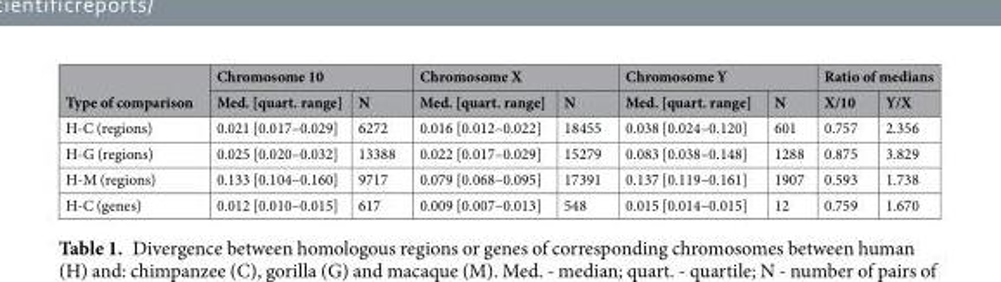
<table><thead><tr><td rowspan="2">Type of comparison</td><td colspan="2">Chromosome 10</td><td colspan="2">Chromosome X</td><td colspan="2">Chromosome Y</td><td colspan="2">Ratio of medians</td></tr><tr><td>Med. [quart. range]</td><td>N</td><td>Med. [quart. range]</td><td>N</td><td>Med. [quart. range]</td><td>N</td><td>X/10</td><td>Y/X</td></tr></thead><tbody><tr><td>H-C (regions)</td><td>0.021 [0.017–0.029]</td><td>6272</td><td>0.016 [0.012–0.022]</td><td>18455</td><td>0.038 [0.024–0.120]</td><td>601</td><td>0.757</td><td>2.356</td></tr><tr><td>H-G (regions)</td><td>0.025 [0.020–0.032]</td><td>13388</td><td>0.022 [0.017–0.029]</td><td>15279</td><td>0.083 [0.038–0.148]</td><td>1288</td><td>0.875</td><td>3.829</td></tr><tr><td>H-M (regions)</td><td>0.133 [0.104–0.160]</td><td>9717</td><td>0.079 [0.068–0.095]</td><td>17391</td><td>0.137 [0.119–0.161]</td><td>1907</td><td>0.593</td><td>1.738</td></tr><tr><td>H-C (genes)</td><td>0.012 [0.010–0.015]</td><td>617</td><td>0.009 [0.007–0.013]</td><td>548</td><td>0.015 [0.014–0.015]</td><td>12</td><td>0.759</td><td>1.670</td></tr></tbody></table>